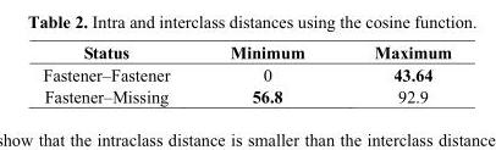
<table><thead><tr><td>Status</td><td>Minimum</td><td>Maximum</td></tr></thead><tbody><tr><td>Fastener–Fastener</td><td>0</td><td>43.64</td></tr><tr><td>Fastener–Missing</td><td>56.8</td><td>92.9</td></tr></tbody></table>